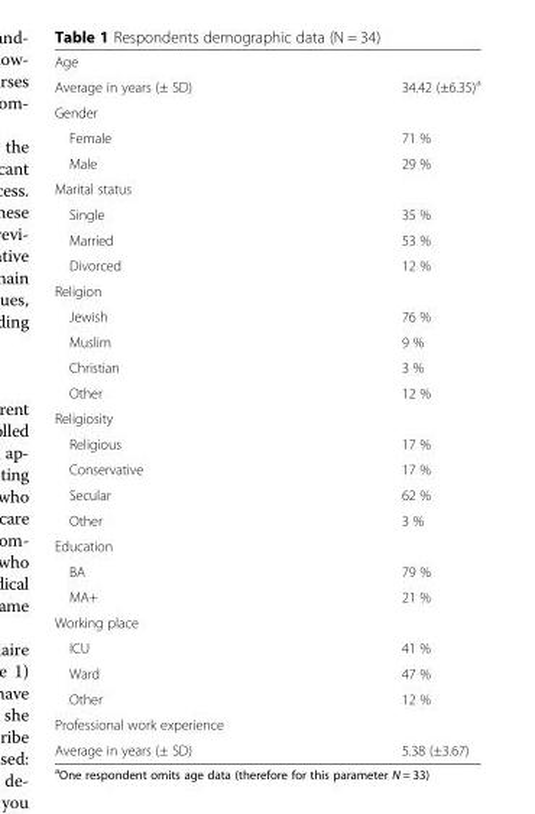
<table><tbody><tr><td colspan="2">Age</td></tr><tr><td>Average in years (± SD)</td><td>34.42 (±6.35)<sup>a</sup></td></tr><tr><td colspan="2">Gender</td></tr><tr><td>Female</td><td>71 %</td></tr><tr><td>Male</td><td>29 %</td></tr><tr><td colspan="2">Marital status</td></tr><tr><td>Single</td><td>35 %</td></tr><tr><td>Married</td><td>53 %</td></tr><tr><td>Divorced</td><td>12 %</td></tr><tr><td colspan="2">Religion</td></tr><tr><td>Jewish</td><td>76 %</td></tr><tr><td>Muslim</td><td>9 %</td></tr><tr><td>Christian</td><td>3 %</td></tr><tr><td>Other</td><td>12 %</td></tr><tr><td colspan="2">Religiosity</td></tr><tr><td>Religious</td><td>17 %</td></tr><tr><td>Conservative</td><td>17 %</td></tr><tr><td>Secular</td><td>62 %</td></tr><tr><td>Other</td><td>3 %</td></tr><tr><td colspan="2">Education</td></tr><tr><td>BA</td><td>79 %</td></tr><tr><td>MA+</td><td>21 %</td></tr><tr><td colspan="2">Working place</td></tr><tr><td>ICU</td><td>41 %</td></tr><tr><td>Ward</td><td>47 %</td></tr><tr><td>Other</td><td>12 %</td></tr><tr><td colspan="2">Professional work experience</td></tr><tr><td>Average in years (± SD)</td><td>5.38 (±3.67)</td></tr></tbody></table>